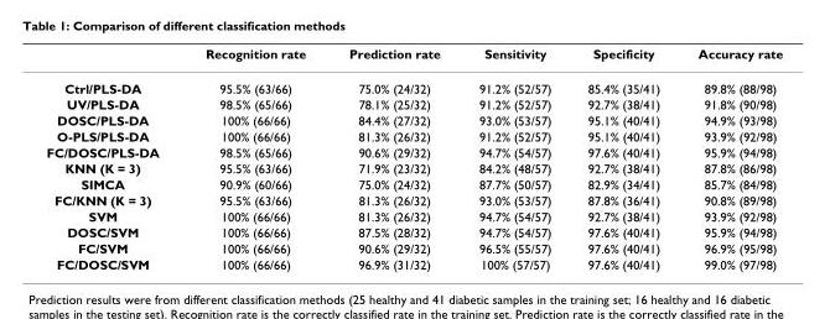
<table><thead><tr><td></td><td>Recognition rate</td><td>Prediction rate</td><td>Sensitivity</td><td>Specificity</td><td>Accuracy rate</td></tr></thead><tbody><tr><td>Ctrl/PLS-DA</td><td>95.5% (63/66)</td><td>75.0% (24/32)</td><td>91.2% (52/57)</td><td>85.4% (35/41)</td><td>89.8% (88/98)</td></tr><tr><td>UV/PLS-DA</td><td>98.5% (65/66)</td><td>78.1% (25/32)</td><td>91.2% (52/57)</td><td>92.7% (38/41)</td><td>91.8% (90/98)</td></tr><tr><td>DOSC/PLS-DA</td><td>100% (66/66)</td><td>84.4% (27/32)</td><td>93.0% (53/57)</td><td>95.1% (40/41)</td><td>94.9% (93/98)</td></tr><tr><td>O-PLS/PLS-DA</td><td>100% (66/66)</td><td>81.3% (26/32)</td><td>91.2% (52/57)</td><td>95.1% (40/41)</td><td>93.9% (92/98)</td></tr><tr><td>FC/DOSC/PLS-DA</td><td>98.5% (65/66)</td><td>90.6% (29/32)</td><td>94.7% (54/57)</td><td>97.6% (40/41)</td><td>95.9% (94/98)</td></tr><tr><td>KNN (K = 3)</td><td>95.5% (63/66)</td><td>71.9% (23/32)</td><td>84.2% (48/57)</td><td>92.7% (38/41)</td><td>87.8% (86/98)</td></tr><tr><td>SIMCA</td><td>90.9% (60/66)</td><td>75.0% (24/32)</td><td>87.7% (50/57)</td><td>82.9% (34/41)</td><td>85.7% (84/98)</td></tr><tr><td>FC/KNN (K = 3)</td><td>95.5% (63/66)</td><td>81.3% (26/32)</td><td>93.0% (53/57)</td><td>87.8% (36/41)</td><td>90.8% (89/98)</td></tr><tr><td>SVM</td><td>100% (66/66)</td><td>81.3% (26/32)</td><td>94.7% (54/57)</td><td>92.7% (38/41)</td><td>93.9% (92/98)</td></tr><tr><td>DOSC/SVM</td><td>100% (66/66)</td><td>87.5% (28/32)</td><td>94.7% (54/57)</td><td>97.6% (40/41)</td><td>95.9% (94/98)</td></tr><tr><td>FC/SVM</td><td>100% (66/66)</td><td>90.6% (29/32)</td><td>96.5% (55/57)</td><td>97.6% (40/41)</td><td>96.9% (95/98)</td></tr><tr><td>FC/DOSC/SVM</td><td>100% (66/66)</td><td>96.9% (31/32)</td><td>100% (57/57)</td><td>97.6% (40/41)</td><td>99.0% (97/98)</td></tr></tbody></table>